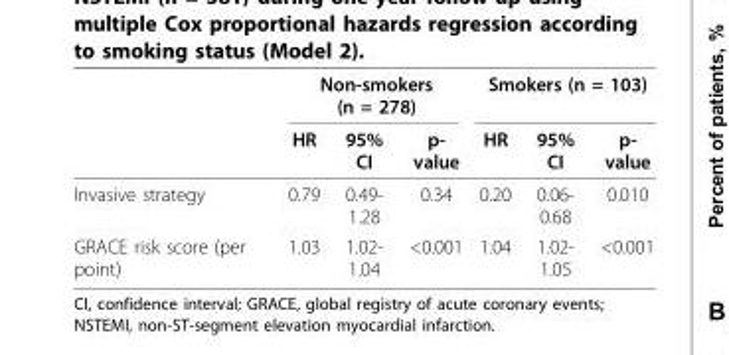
<table><thead><tr><td rowspan="2"></td><td colspan="3">Non-smokers (n = 278)</td><td colspan="3">Smokers (n = 103)</td></tr><tr><td>HR</td><td>95% CI</td><td>p- value</td><td>HR</td><td>95% CI</td><td>p- value</td></tr></thead><tbody><tr><td>Invasive strategy</td><td>0.79</td><td>0.49- 1.28</td><td>0.34</td><td>0.20</td><td>0.06- 0.68</td><td>0.010</td></tr><tr><td>GRACE risk score (per point)</td><td>1.03</td><td>1.02- 1.04</td><td>&lt;0.001</td><td>1.04</td><td>1.02- 1.05</td><td>&lt;0.001</td></tr></tbody></table>